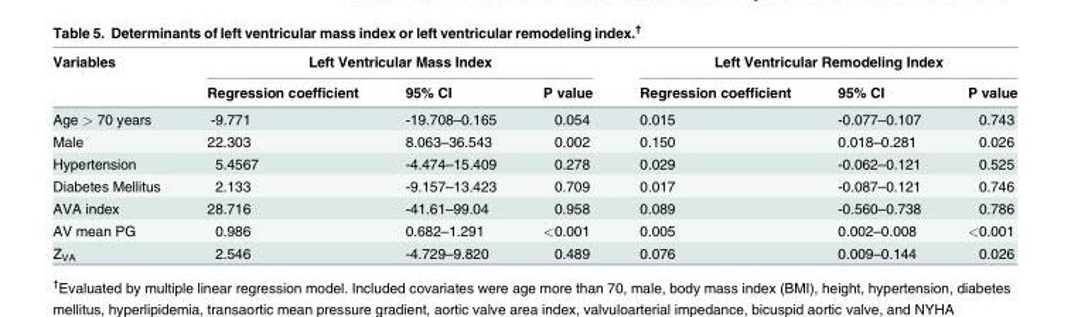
<table><thead><tr><td rowspan="2">Variables</td><td colspan="3">Left Ventricular Mass Index</td><td colspan="3">Left Ventricular Remodeling Index</td></tr><tr><td>Regression coefficient</td><td>95% CI</td><td>P value</td><td>Regression coefficient</td><td>95% CI</td><td>P value</td></tr></thead><tbody><tr><td>Age &gt; 70 years</td><td>-9.771</td><td>-19.708–0.165</td><td>0.054</td><td>0.015</td><td>-0.077–0.107</td><td>0.743</td></tr><tr><td>Male</td><td>22.303</td><td>8.063–36.543</td><td>0.002</td><td>0.150</td><td>0.018–0.281</td><td>0.026</td></tr><tr><td>Hypertension</td><td>5.4567</td><td>-4.474–15.409</td><td>0.278</td><td>0.029</td><td>-0.062–0.121</td><td>0.525</td></tr><tr><td>Diabetes Mellitus</td><td>2.133</td><td>-9.157–13.423</td><td>0.709</td><td>0.017</td><td>-0.087–0.121</td><td>0.746</td></tr><tr><td>AVA index</td><td>28.716</td><td>-41.61–99.04</td><td>0.958</td><td>0.089</td><td>-0.560–0.738</td><td>0.786</td></tr><tr><td>AV mean PG</td><td>0.986</td><td>0.682–1.291</td><td>&lt;0.001</td><td>0.005</td><td>0.002–0.008</td><td>&lt;0.001</td></tr><tr><td>Z<sub>VA</sub></td><td>2.546</td><td>-4.729–9.820</td><td>0.489</td><td>0.076</td><td>0.009–0.144</td><td>0.026</td></tr></tbody></table>